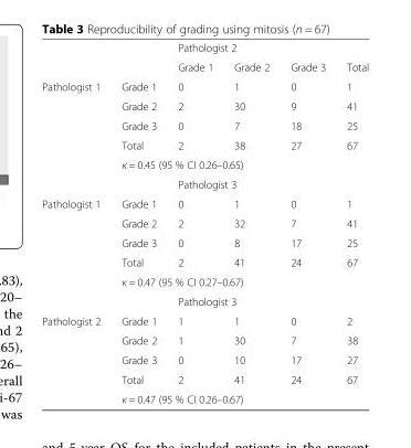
<table><thead><tr><td rowspan="2"></td><td rowspan="2"></td><td colspan="4">Pathologist 2</td></tr><tr><td>Grade 1</td><td>Grade 2</td><td>Grade 3</td><td>Total</td></tr></thead><tbody><tr><td rowspan="5">Pathologist 1</td><td>Grade 1</td><td>0</td><td>1</td><td>0</td><td>1</td></tr><tr><td>Grade 2</td><td>2</td><td>30</td><td>9</td><td>41</td></tr><tr><td>Grade 3</td><td>0</td><td>7</td><td>18</td><td>25</td></tr><tr><td>Total</td><td>2</td><td>38</td><td>27</td><td>67</td></tr><tr><td colspan="5">κ = 0.45 (95 % CI 0.26–0.65)</td></tr><tr><td colspan="2"></td><td colspan="4">Pathologist 3</td></tr><tr><td rowspan="5">Pathologist 1</td><td>Grade 1</td><td>0</td><td>1</td><td>0</td><td>1</td></tr><tr><td>Grade 2</td><td>2</td><td>32</td><td>7</td><td>41</td></tr><tr><td>Grade 3</td><td>0</td><td>8</td><td>17</td><td>25</td></tr><tr><td>Total</td><td>2</td><td>41</td><td>24</td><td>67</td></tr><tr><td colspan="5">κ = 0.47 (95 % CI 0.27–0.67)</td></tr><tr><td colspan="2"></td><td colspan="4">Pathologist 3</td></tr><tr><td rowspan="5">Pathologist 2</td><td>Grade 1</td><td>1</td><td>1</td><td>0</td><td>2</td></tr><tr><td>Grade 2</td><td>1</td><td>30</td><td>7</td><td>38</td></tr><tr><td>Grade 3</td><td>0</td><td>10</td><td>17</td><td>27</td></tr><tr><td>Total</td><td>2</td><td>41</td><td>24</td><td>67</td></tr><tr><td colspan="5">κ = 0.47 (95 % CI 0.26–0.67)</td></tr></tbody></table>